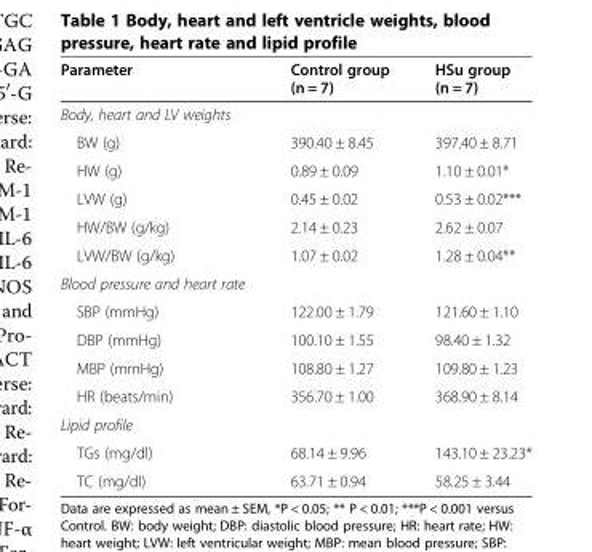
<table><thead><tr><td>Parameter</td><td>Control group (n = 7)</td><td>HSu group (n = 7)</td></tr></thead><tbody><tr><td colspan="3">Body, heart and LV weights</td></tr><tr><td>BW (g)</td><td>390.40 ± 8.45</td><td>397.40 ± 8.71</td></tr><tr><td>HW (g)</td><td>0.89 ± 0.09</td><td>1.10 ± 0.01*</td></tr><tr><td>LVW (g)</td><td>0.45 ± 0.02</td><td>0.53 ± 0.02***</td></tr><tr><td>HW/BW (g/kg)</td><td>2.14 ± 0.23</td><td>2.62 ± 0.07</td></tr><tr><td>LVW/BW (g/kg)</td><td>1.07 ± 0.02</td><td>1.28 ± 0.04**</td></tr><tr><td colspan="3">Blood pressure and heart rate</td></tr><tr><td>SBP (mmHg)</td><td>122.00 ± 1.79</td><td>121.60 ± 1.10</td></tr><tr><td>DBP (mmHg)</td><td>100.10 ± 1.55</td><td>98.40 ± 1.32</td></tr><tr><td>MBP (mmHg)</td><td>108.80 ± 1.27</td><td>109.80 ± 1.23</td></tr><tr><td>HR (beats/min)</td><td>356.70 ± 1.00</td><td>368.90 ± 8.14</td></tr><tr><td colspan="3">Lipid profile</td></tr><tr><td>TGs (mg/dl)</td><td>68.14 ± 9.96</td><td>143.10 ± 23.23*</td></tr><tr><td>TC (mg/dl)</td><td>63.71 ± 0.94</td><td>58.25 ± 3.44</td></tr></tbody></table>